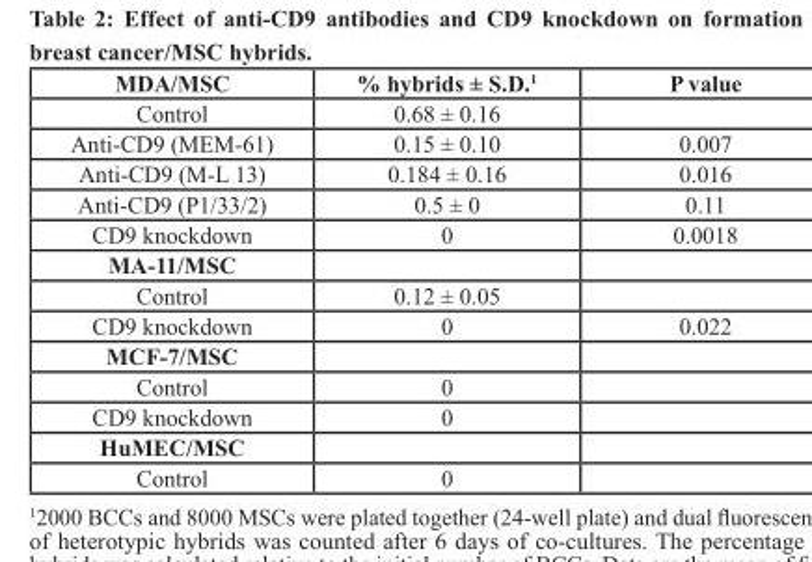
<table><thead><tr><td>MDA/MSC</td><td>% hybrids ± S.D.<sup>1</sup></td><td>P value</td></tr></thead><tbody><tr><td>Control</td><td>0.68 ± 0.16</td><td></td></tr><tr><td>Anti-CD9 (MEM-61)</td><td>0.15 ± 0.10</td><td>0.007</td></tr><tr><td>Anti-CD9 (M-L 13)</td><td>0.184 ± 0.16</td><td>0.016</td></tr><tr><td>Anti-CD9 (P1/33/2)</td><td>0.5 ± 0</td><td>0.11</td></tr><tr><td>CD9 knockdown</td><td>0</td><td>0.0018</td></tr><tr><td colspan="3">MA-11/MSC</td></tr><tr><td>Control</td><td>0.12 ± 0.05</td><td></td></tr><tr><td>CD9 knockdown</td><td>0</td><td>0.022</td></tr><tr><td colspan="3">MCF-7/MSC</td></tr><tr><td>Control</td><td>0</td><td></td></tr><tr><td>CD9 knockdown</td><td>0</td><td></td></tr><tr><td colspan="3">HuMEC/MSC</td></tr><tr><td>Control</td><td>0</td><td></td></tr></tbody></table>